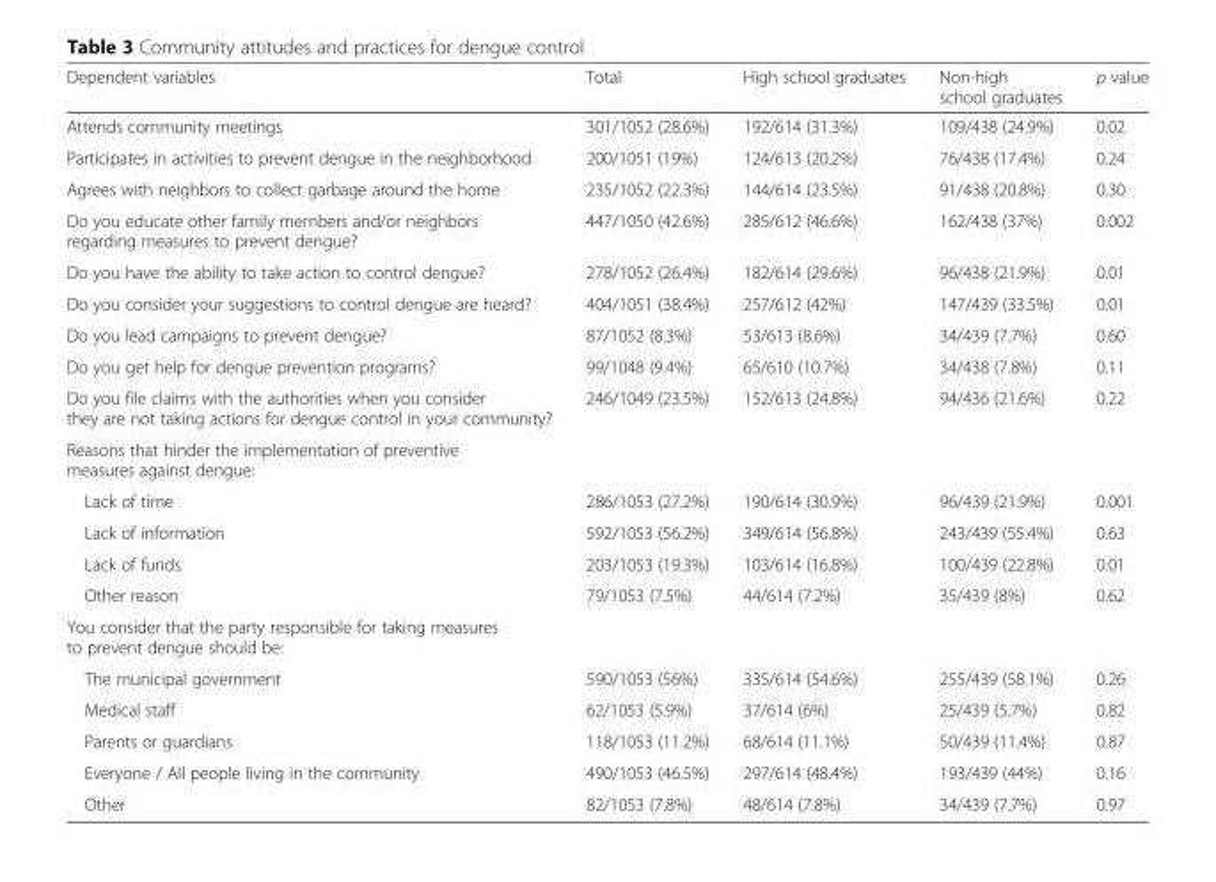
<table><thead><tr><td>Dependent variables</td><td>Total</td><td>High school graduates</td><td>Non-high school graduates</td><td>p value</td></tr></thead><tbody><tr><td>Attends community meetings</td><td>301/1052 (28.6%)</td><td>192/614 (31.3%)</td><td>109/438 (24.9%)</td><td>0.02</td></tr><tr><td>Participates in activities to prevent dengue in the neighborhood</td><td>200/1051 (19%)</td><td>124/613 (20.2%)</td><td>76/438 (17.4%)</td><td>0.24</td></tr><tr><td>Agrees with neighbors to collect garbage around the home</td><td>235/1052 (22.3%)</td><td>144/614 (23.5%)</td><td>91/438 (20.8%)</td><td>0.30</td></tr><tr><td>Do you educate other family members and/or neighbors regarding measures to prevent dengue?</td><td>447/1050 (42.6%)</td><td>285/612 (46.6%)</td><td>162/438 (37%)</td><td>0.002</td></tr><tr><td>Do you have the ability to take action to control dengue?</td><td>278/1052 (26.4%)</td><td>182/614 (29.6%)</td><td>96/438 (21.9%)</td><td>0.01</td></tr><tr><td>Do you consider your suggestions to control dengue are heard?</td><td>404/1051 (38.4%)</td><td>257/612 (42%)</td><td>147/439 (33.5%)</td><td>0.01</td></tr><tr><td>Do you lead campaigns to prevent dengue?</td><td>87/1052 (8.3%)</td><td>53/613 (8.6%)</td><td>34/439 (7.7%)</td><td>0.60</td></tr><tr><td>Do you get help for dengue prevention programs?</td><td>99/1048 (9.4%)</td><td>65/610 (10.7%)</td><td>34/438 (7.8%)</td><td>0.11</td></tr><tr><td>Do you file claims with the authorities when you consider they are not taking actions for dengue control in your community?</td><td>246/1049 (23.5%)</td><td>152/613 (24.8%)</td><td>94/436 (21.6%)</td><td>0.22</td></tr><tr><td colspan="5">Reasons that hinder the implementation of preventive measures against dengue:</td></tr><tr><td>Lack of time</td><td>286/1053 (27.2%)</td><td>190/614 (30.9%)</td><td>96/439 (21.9%)</td><td>0.001</td></tr><tr><td>Lack of information</td><td>592/1053 (56.2%)</td><td>349/614 (56.8%)</td><td>243/439 (55.4%)</td><td>0.63</td></tr><tr><td>Lack of funds</td><td>203/1053 (19.3%)</td><td>103/614 (16.8%)</td><td>100/439 (22.8%)</td><td>0.01</td></tr><tr><td>Other reason</td><td>79/1053 (7.5%)</td><td>44/614 (7.2%)</td><td>35/439 (8%)</td><td>0.62</td></tr><tr><td colspan="5">You consider that the party responsible for taking measures to prevent dengue should be:</td></tr><tr><td>The municipal government</td><td>590/1053 (56%)</td><td>335/614 (54.6%)</td><td>255/439 (58.1%)</td><td>0.26</td></tr><tr><td>Medical staff</td><td>62/1053 (5.9%)</td><td>37/614 (6%)</td><td>25/439 (5.7%)</td><td>0.82</td></tr><tr><td>Parents or guardians</td><td>118/1053 (11.2%)</td><td>68/614 (11.1%)</td><td>50/439 (11.4%)</td><td>0.87</td></tr><tr><td>Everyone / All people living in the community</td><td>490/1053 (46.5%)</td><td>297/614 (48.4%)</td><td>193/439 (44%)</td><td>0.16</td></tr><tr><td>Other</td><td>82/1053 (7.8%)</td><td>48/614 (7.8%)</td><td>34/439 (7.7%)</td><td>0.97</td></tr></tbody></table>